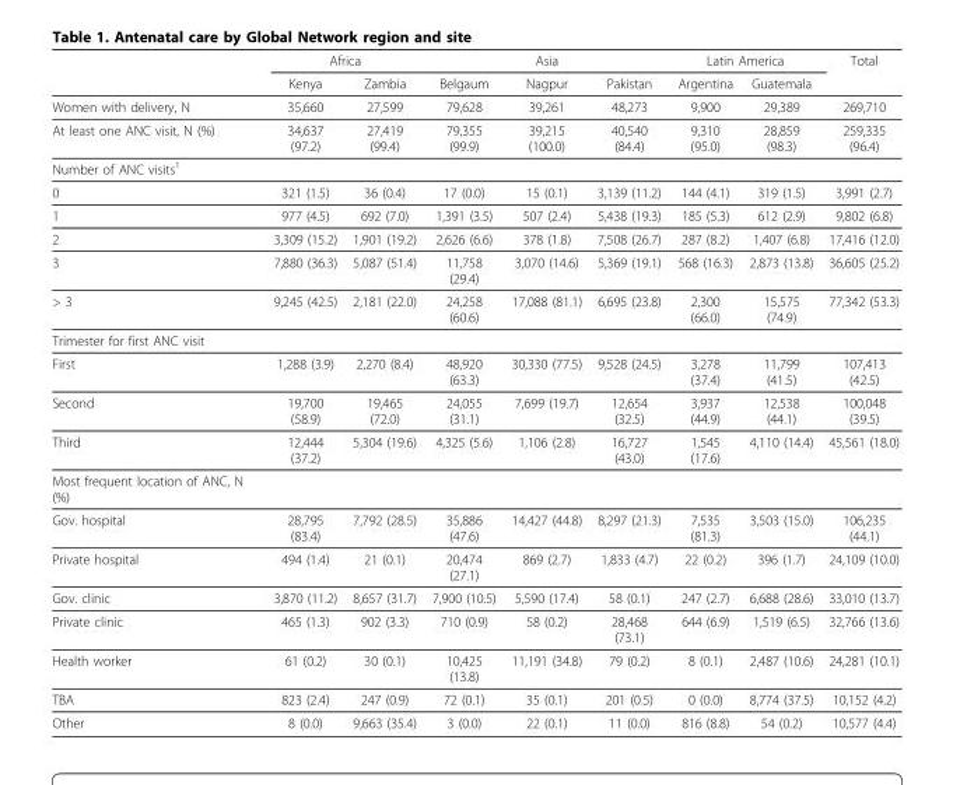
<table><thead><tr><td rowspan="2"></td><td colspan="2">Africa</td><td colspan="3">Asia</td><td colspan="2">Latin America</td><td rowspan="2">Total</td></tr><tr><td>Kenya</td><td>Zambia</td><td>Belgaum</td><td>Nagpur</td><td>Pakistan</td><td>Argentina</td><td>Guatemala</td></tr></thead><tbody><tr><td>Women with delivery, N</td><td>35,660</td><td>27,599</td><td>79,628</td><td>39,261</td><td>48,273</td><td>9,900</td><td>29,389</td><td>269,710</td></tr><tr><td>At least one ANC visit, N (%)</td><td>34,637 (97.2)</td><td>27,419 (99.4)</td><td>79,355 (99.9)</td><td>39,215 (100.0)</td><td>40,540 (84.4)</td><td>9,310 (95.0)</td><td>28,859 (98.3)</td><td>259,335 (96.4)</td></tr><tr><td colspan="9">Number of ANC visits<sup>1</sup></td></tr><tr><td>0</td><td>321 (1.5)</td><td>36 (0.4)</td><td>17 (0.0)</td><td>15 (0.1)</td><td>3,139 (11.2)</td><td>144 (4.1)</td><td>319 (1.5)</td><td>3,991 (2.7)</td></tr><tr><td>1</td><td>977 (4.5)</td><td>692 (7.0)</td><td>1,391 (3.5)</td><td>507 (2.4)</td><td>5,438 (19.3)</td><td>185 (5.3)</td><td>612 (2.9)</td><td>9,802 (6.8)</td></tr><tr><td>2</td><td>3,309 (15.2)</td><td>1,901 (19.2)</td><td>2,626 (6.6)</td><td>378 (1.8)</td><td>7,508 (26.7)</td><td>287 (8.2)</td><td>1,407 (6.8)</td><td>17,416 (12.0)</td></tr><tr><td>3</td><td>7,880 (36.3)</td><td>5,087 (51.4)</td><td>11,758 (29.4)</td><td>3,070 (14.6)</td><td>5,369 (19.1)</td><td>568 (16.3)</td><td>2,873 (13.8)</td><td>36,605 (25.2)</td></tr><tr><td>&gt; 3</td><td>9,245 (42.5)</td><td>2,181 (22.0)</td><td>24,258 (60.6)</td><td>17,088 (81.1)</td><td>6,695 (23.8)</td><td>2,300 (66.0)</td><td>15,575 (74.9)</td><td>77,342 (53.3)</td></tr><tr><td colspan="9">Trimester for first ANC visit</td></tr><tr><td>First</td><td>1,288 (3.9)</td><td>2,270 (8.4)</td><td>48,920 (63.3)</td><td>30,330 (77.5)</td><td>9,528 (24.5)</td><td>3,278 (37.4)</td><td>11,799 (41.5)</td><td>107,413 (42.5)</td></tr><tr><td>Second</td><td>19,700 (58.9)</td><td>19,465 (72.0)</td><td>24,055 (31.1)</td><td>7,699 (19.7)</td><td>12,654 (32.5)</td><td>3,937 (44.9)</td><td>12,538 (44.1)</td><td>100,048 (39.5)</td></tr><tr><td>Third</td><td>12,444 (37.2)</td><td>5,304 (19.6)</td><td>4,325 (5.6)</td><td>1,106 (2.8)</td><td>16,727 (43.0)</td><td>1,545 (17.6)</td><td>4,110 (14.4)</td><td>45,561 (18.0)</td></tr><tr><td colspan="9">Most frequent location of ANC, N (%)</td></tr><tr><td>Gov. hospital</td><td>28,795 (83.4)</td><td>7,792 (28.5)</td><td>35,886 (47.6)</td><td>14,427 (44.8)</td><td>8,297 (21.3)</td><td>7,535 (81.3)</td><td>3,503 (15.0)</td><td>106,235 (44.1)</td></tr><tr><td>Private hospital</td><td>494 (1.4)</td><td>21 (0.1)</td><td>20,474 (27.1)</td><td>869 (2.7)</td><td>1,833 (4.7)</td><td>22 (0.2)</td><td>396 (1.7)</td><td>24,109 (10.0)</td></tr><tr><td>Gov. clinic</td><td>3,870 (11.2)</td><td>8,657 (31.7)</td><td>7,900 (10.5)</td><td>5,590 (17.4)</td><td>58 (0.1)</td><td>247 (2.7)</td><td>6,688 (28.6)</td><td>33,010 (13.7)</td></tr><tr><td>Private clinic</td><td>465 (1.3)</td><td>902 (3.3)</td><td>710 (0.9)</td><td>58 (0.2)</td><td>28,468 (73.1)</td><td>644 (6.9)</td><td>1,519 (6.5)</td><td>32,766 (13.6)</td></tr><tr><td>Health worker</td><td>61 (0.2)</td><td>30 (0.1)</td><td>10,425 (13.8)</td><td>11,191 (34.8)</td><td>79 (0.2)</td><td>8 (0.1)</td><td>2,487 (10.6)</td><td>24,281 (10.1)</td></tr><tr><td>TBA</td><td>823 (2.4)</td><td>247 (0.9)</td><td>72 (0.1)</td><td>35 (0.1)</td><td>201 (0.5)</td><td>0 (0.0)</td><td>8,774 (37.5)</td><td>10,152 (4.2)</td></tr><tr><td>Other</td><td>8 (0.0)</td><td>9,663 (35.4)</td><td>3 (0.0)</td><td>22 (0.1)</td><td>11 (0.0)</td><td>816 (8.8)</td><td>54 (0.2)</td><td>10,577 (4.4)</td></tr></tbody></table>